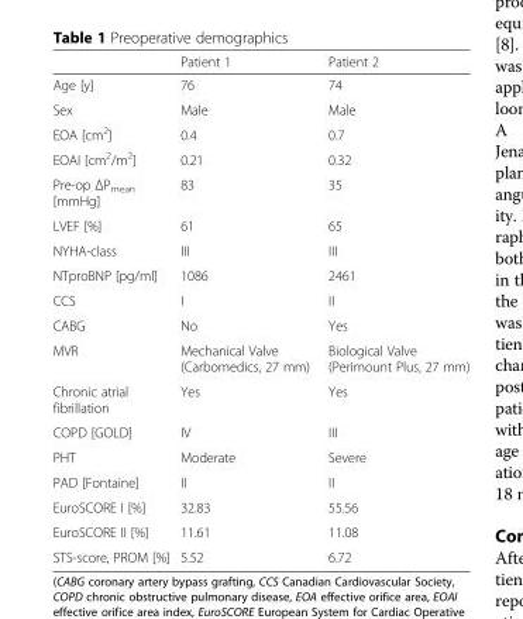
<table><thead><tr><td></td><td>Patient 1</td><td>Patient 2</td></tr></thead><tbody><tr><td>Age [y]</td><td>76</td><td>74</td></tr><tr><td>Sex</td><td>Male</td><td>Male</td></tr><tr><td>EOA [cm<sup>2</sup>]</td><td>0.4</td><td>0.7</td></tr><tr><td>EOAI [cm<sup>2</sup>/m<sup>2</sup>]</td><td>0.21</td><td>0.32</td></tr><tr><td>Pre-op ΔP<sub>mean</sub> [mmHg]</td><td>83</td><td>35</td></tr><tr><td>LVEF [%]</td><td>61</td><td>65</td></tr><tr><td>NYHA-class</td><td>III</td><td>III</td></tr><tr><td>NTproBNP [pg/ml]</td><td>1086</td><td>2461</td></tr><tr><td>CCS</td><td>I</td><td>II</td></tr><tr><td>CABG</td><td>No</td><td>Yes</td></tr><tr><td>MVR</td><td>Mechanical Valve (Carbomedics, 27 mm)</td><td>Biological Valve (Perimount Plus, 27 mm)</td></tr><tr><td>Chronic atrial fibrillation</td><td>Yes</td><td>Yes</td></tr><tr><td>COPD [GOLD]</td><td>IV</td><td>III</td></tr><tr><td>PHT</td><td>Moderate</td><td>Severe</td></tr><tr><td>PAD [Fontaine]</td><td>II</td><td>II</td></tr><tr><td>EuroSCORE I [%]</td><td>32.83</td><td>55.56</td></tr><tr><td>EuroSCORE II [%]</td><td>11.61</td><td>11.08</td></tr><tr><td>STS-score, PROM [%]</td><td>5.52</td><td>6.72</td></tr></tbody></table>